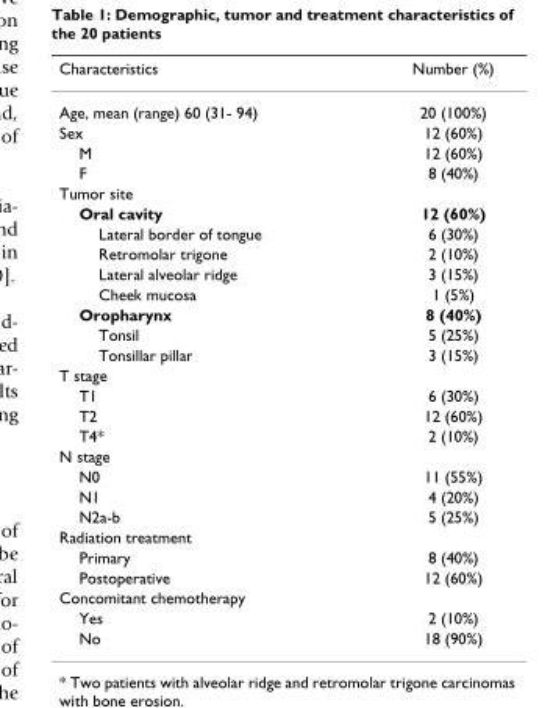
<table><thead><tr><td>Characteristics</td><td>Number (%)</td></tr></thead><tbody><tr><td>Age, mean (range) 60 (31- 94)</td><td>20 (100%)</td></tr><tr><td>Sex</td><td>12 (60%)</td></tr><tr><td>M</td><td>12 (60%)</td></tr><tr><td>F</td><td>8 (40%)</td></tr><tr><td colspan="2">Tumor site</td></tr><tr><td>Oral cavity</td><td>12 (60%)</td></tr><tr><td>Lateral border of tongue</td><td>6 (30%)</td></tr><tr><td>Retromolar trigone</td><td>2 (10%)</td></tr><tr><td>Lateral alveolar ridge</td><td>3 (15%)</td></tr><tr><td>Cheek mucosa</td><td>1 (5%)</td></tr><tr><td>Oropharynx</td><td>8 (40%)</td></tr><tr><td>Tonsil</td><td>5 (25%)</td></tr><tr><td>Tonsillar pillar</td><td>3 (15%)</td></tr><tr><td colspan="2">T stage</td></tr><tr><td>T1</td><td>6 (30%)</td></tr><tr><td>T2</td><td>12 (60%)</td></tr><tr><td>T4*</td><td>2 (10%)</td></tr><tr><td colspan="2">N stage</td></tr><tr><td>N0</td><td>11 (55%)</td></tr><tr><td>N1</td><td>4 (20%)</td></tr><tr><td>N2a-b</td><td>5 (25%)</td></tr><tr><td colspan="2">Radiation treatment</td></tr><tr><td>Primary</td><td>8 (40%)</td></tr><tr><td>Postoperative</td><td>12 (60%)</td></tr><tr><td colspan="2">Concomitant chemotherapy</td></tr><tr><td>Yes</td><td>2 (10%)</td></tr><tr><td>No</td><td>18 (90%)</td></tr></tbody></table>